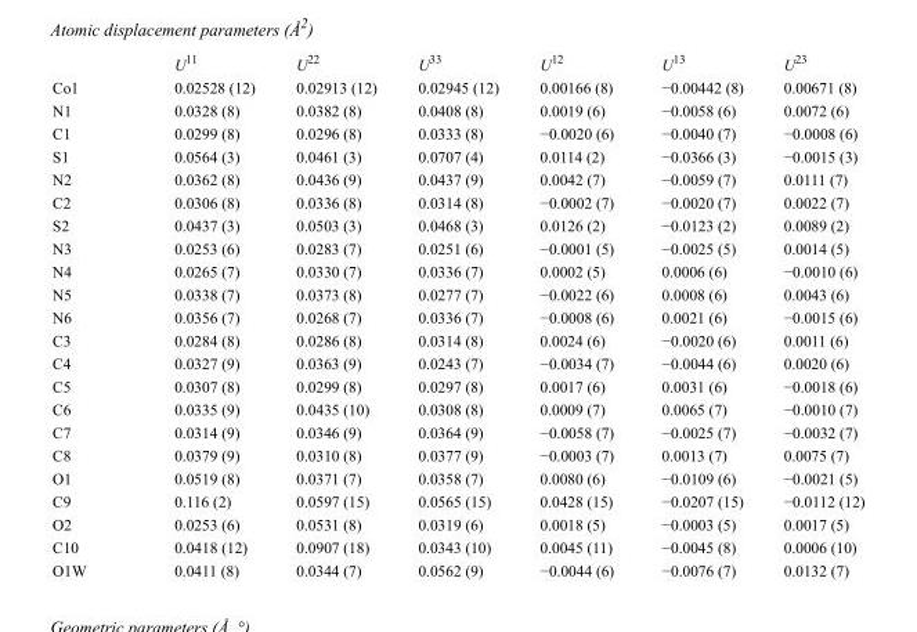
<table><thead><tr><td></td><td>U<sup>11</sup></td><td>U<sup>22</sup></td><td>U<sup>33</sup></td><td>U<sup>12</sup></td><td>U<sup>13</sup></td><td>U<sup>23</sup></td></tr></thead><tbody><tr><td>Co1</td><td>0.02528 (12)</td><td>0.02913 (12)</td><td>0.02945 (12)</td><td>0.00166 (8)</td><td>−0.00442 (8)</td><td>0.00671 (8)</td></tr><tr><td>N1</td><td>0.0328 (8)</td><td>0.0382 (8)</td><td>0.0408 (8)</td><td>0.0019 (6)</td><td>−0.0058 (6)</td><td>0.0072 (6)</td></tr><tr><td>C1</td><td>0.0299 (8)</td><td>0.0296 (8)</td><td>0.0333 (8)</td><td>−0.0020 (6)</td><td>−0.0040 (7)</td><td>−0.0008 (6)</td></tr><tr><td>S1</td><td>0.0564 (3)</td><td>0.0461 (3)</td><td>0.0707 (4)</td><td>0.0114 (2)</td><td>−0.0366 (3)</td><td>−0.0015 (3)</td></tr><tr><td>N2</td><td>0.0362 (8)</td><td>0.0436 (9)</td><td>0.0437 (9)</td><td>0.0042 (7)</td><td>−0.0059 (7)</td><td>0.0111 (7)</td></tr><tr><td>C2</td><td>0.0306 (8)</td><td>0.0336 (8)</td><td>0.0314 (8)</td><td>−0.0002 (7)</td><td>−0.0020 (7)</td><td>0.0022 (7)</td></tr><tr><td>S2</td><td>0.0437 (3)</td><td>0.0503 (3)</td><td>0.0468 (3)</td><td>0.0126 (2)</td><td>−0.0123 (2)</td><td>0.0089 (2)</td></tr><tr><td>N3</td><td>0.0253 (6)</td><td>0.0283 (7)</td><td>0.0251 (6)</td><td>−0.0001 (5)</td><td>−0.0025 (5)</td><td>0.0014 (5)</td></tr><tr><td>N4</td><td>0.0265 (7)</td><td>0.0330 (7)</td><td>0.0336 (7)</td><td>0.0002 (5)</td><td>0.0006 (6)</td><td>−0.0010 (6)</td></tr><tr><td>N5</td><td>0.0338 (7)</td><td>0.0373 (8)</td><td>0.0277 (7)</td><td>−0.0022 (6)</td><td>0.0008 (6)</td><td>0.0043 (6)</td></tr><tr><td>N6</td><td>0.0356 (7)</td><td>0.0268 (7)</td><td>0.0336 (7)</td><td>−0.0008 (6)</td><td>0.0021 (6)</td><td>−0.0015 (6)</td></tr><tr><td>C3</td><td>0.0284 (8)</td><td>0.0286 (8)</td><td>0.0314 (8)</td><td>0.0024 (6)</td><td>−0.0020 (6)</td><td>0.0011 (6)</td></tr><tr><td>C4</td><td>0.0327 (9)</td><td>0.0363 (9)</td><td>0.0243 (7)</td><td>−0.0034 (7)</td><td>−0.0044 (6)</td><td>0.0020 (6)</td></tr><tr><td>C5</td><td>0.0307 (8)</td><td>0.0299 (8)</td><td>0.0297 (8)</td><td>0.0017 (6)</td><td>0.0031 (6)</td><td>−0.0018 (6)</td></tr><tr><td>C6</td><td>0.0335 (9)</td><td>0.0435 (10)</td><td>0.0308 (8)</td><td>0.0009 (7)</td><td>0.0065 (7)</td><td>−0.0010 (7)</td></tr><tr><td>C7</td><td>0.0314 (9)</td><td>0.0346 (9)</td><td>0.0364 (9)</td><td>−0.0058 (7)</td><td>−0.0025 (7)</td><td>−0.0032 (7)</td></tr><tr><td>C8</td><td>0.0379 (9)</td><td>0.0310 (8)</td><td>0.0377 (9)</td><td>−0.0003 (7)</td><td>0.0013 (7)</td><td>0.0075 (7)</td></tr><tr><td>O1</td><td>0.0519 (8)</td><td>0.0371 (7)</td><td>0.0358 (7)</td><td>0.0080 (6)</td><td>−0.0109 (6)</td><td>−0.0021 (5)</td></tr><tr><td>C9</td><td>0.116 (2)</td><td>0.0597 (15)</td><td>0.0565 (15)</td><td>0.0428 (15)</td><td>−0.0207 (15)</td><td>−0.0112 (12)</td></tr><tr><td>O2</td><td>0.0253 (6)</td><td>0.0531 (8)</td><td>0.0319 (6)</td><td>0.0018 (5)</td><td>−0.0003 (5)</td><td>0.0017 (5)</td></tr><tr><td>C10</td><td>0.0418 (12)</td><td>0.0907 (18)</td><td>0.0343 (10)</td><td>0.0045 (11)</td><td>−0.0045 (8)</td><td>0.0006 (10)</td></tr><tr><td>O1W</td><td>0.0411 (8)</td><td>0.0344 (7)</td><td>0.0562 (9)</td><td>−0.0044 (6)</td><td>−0.0076 (7)</td><td>0.0132 (7)</td></tr></tbody></table>